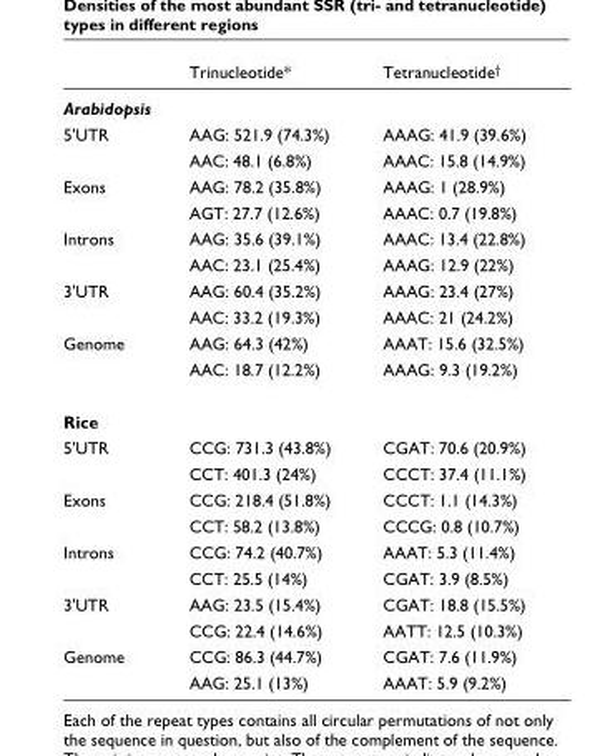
<table><thead><tr><td></td><td>Trinucleotide*</td><td>Tetranucleotide†</td></tr></thead><tbody><tr><td colspan="3">Arabidopsis</td></tr><tr><td rowspan="2">5&#x27;UTR</td><td>AAG: 521.9 (74.3%)</td><td>AAAG: 41.9 (39.6%)</td></tr><tr><td>AAC: 48.1 (6.8%)</td><td>AAAC: 15.8 (14.9%)</td></tr><tr><td rowspan="2">Exons</td><td>AAG: 78.2 (35.8%)</td><td>AAAG: 1 (28.9%)</td></tr><tr><td>AGT: 27.7 (12.6%)</td><td>AAAC: 0.7 (19.8%)</td></tr><tr><td rowspan="2">Introns</td><td>AAG: 35.6 (39.1%)</td><td>AAAC: 13.4 (22.8%)</td></tr><tr><td>AAC: 23.1 (25.4%)</td><td>AAAG: 12.9 (22%)</td></tr><tr><td rowspan="2">3&#x27;UTR</td><td>AAG: 60.4 (35.2%)</td><td>AAAG: 23.4 (27%)</td></tr><tr><td>AAC: 33.2 (19.3%)</td><td>AAAC: 21 (24.2%)</td></tr><tr><td rowspan="2">Genome</td><td>AAG: 64.3 (42%)</td><td>AAAT: 15.6 (32.5%)</td></tr><tr><td>AAC: 18.7 (12.2%)</td><td>AAAG: 9.3 (19.2%)</td></tr><tr><td colspan="3">Rice</td></tr><tr><td rowspan="2">5&#x27;UTR</td><td>CCG: 731.3 (43.8%)</td><td>CGAT: 70.6 (20.9%)</td></tr><tr><td>CCT: 401.3 (24%)</td><td>CCCT: 37.4 (11.1%)</td></tr><tr><td rowspan="2">Exons</td><td>CCG: 218.4 (51.8%)</td><td>CCCT: 1.1 (14.3%)</td></tr><tr><td>CCT: 58.2 (13.8%)</td><td>CCCG: 0.8 (10.7%)</td></tr><tr><td rowspan="2">Introns</td><td>CCG: 74.2 (40.7%)</td><td>AAAT: 5.3 (11.4%)</td></tr><tr><td>CCT: 25.5 (14%)</td><td>CGAT: 3.9 (8.5%)</td></tr><tr><td rowspan="2">3&#x27;UTR</td><td>AAG: 23.5 (15.4%)</td><td>CGAT: 18.8 (15.5%)</td></tr><tr><td>CCG: 22.4 (14.6%)</td><td>AATT: 12.5 (10.3%)</td></tr><tr><td rowspan="2">Genome</td><td>CCG: 86.3 (44.7%)</td><td>CGAT: 7.6 (11.9%)</td></tr><tr><td>AAG: 25.1 (13%)</td><td>AAAT: 5.9 (9.2%)</td></tr></tbody></table>